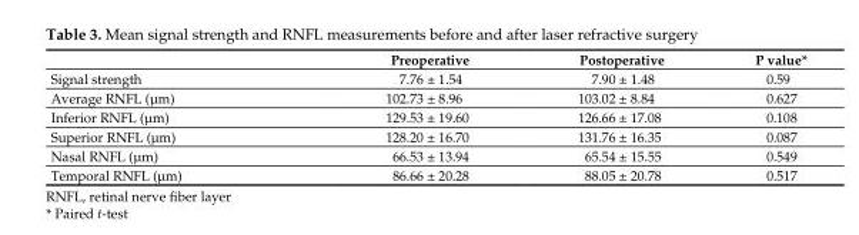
<table><thead><tr><td></td><td>Preoperative</td><td>Postoperative</td><td>P value*</td></tr></thead><tbody><tr><td>Signal strength</td><td>7.76 ± 1.54</td><td>7.90 ± 1.48</td><td>0.59</td></tr><tr><td>Average RNFL (µm)</td><td>102.73 ± 8.96</td><td>103.02 ± 8.84</td><td>0.627</td></tr><tr><td>Inferior RNFL (µm)</td><td>129.53 ± 19.60</td><td>126.66 ± 17.08</td><td>0.108</td></tr><tr><td>Superior RNFL (µm)</td><td>128.20 ± 16.70</td><td>131.76 ± 16.35</td><td>0.087</td></tr><tr><td>Nasal RNFL (µm)</td><td>66.53 ± 13.94</td><td>65.54 ± 15.55</td><td>0.549</td></tr><tr><td>Temporal RNFL (µm)</td><td>86.66 ± 20.28</td><td>88.05 ± 20.78</td><td>0.517</td></tr></tbody></table>